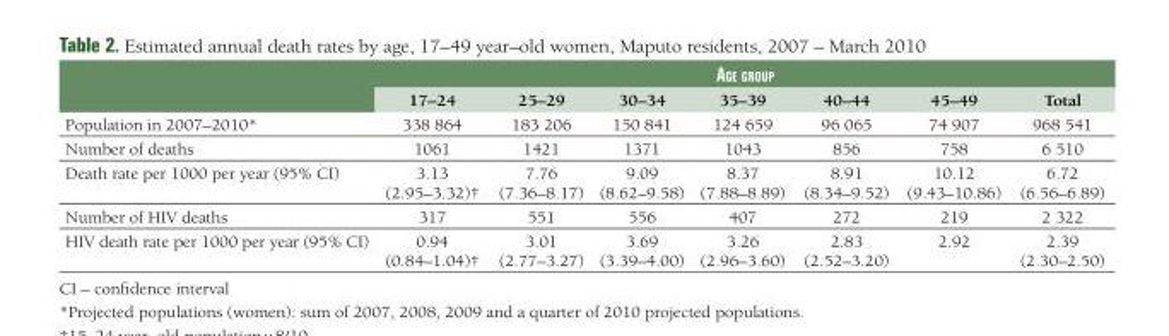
<table><thead><tr><td rowspan="2"></td><td colspan="7">age group</td></tr><tr><td>17–24</td><td>25–29</td><td>30–34</td><td>35–39</td><td>40–44</td><td>45–49</td><td>Total</td></tr></thead><tbody><tr><td>Population in 2007–2010*</td><td>338 864</td><td>183 206</td><td>150 841</td><td>124 659</td><td>96 065</td><td>74 907</td><td>968 541</td></tr><tr><td>Number of deaths</td><td>1061</td><td>1421</td><td>1371</td><td>1043</td><td>856</td><td>758</td><td>6 510</td></tr><tr><td>Death rate per 1000 per year (95% CI)</td><td>3.13 (2.95–3.32)†</td><td>7.76 (7.36–8.17)</td><td>9.09 (8.62–9.58)</td><td>8.37 (7.88–8.89)</td><td>8.91 (8.34–9.52)</td><td>10.12 (9.43–10.86)</td><td>6.72 (6.56–6.89)</td></tr><tr><td>Number of HIV deaths</td><td>317</td><td>551</td><td>556</td><td>407</td><td>272</td><td>219</td><td>2 322</td></tr><tr><td>HIV death rate per 1000 per year (95% CI)</td><td>0.94 (0.84–1.04)†</td><td>3.01 (2.77–3.27)</td><td>3.69 (3.39–4.00)</td><td>3.26 (2.96–3.60)</td><td>2.83 (2.52–3.20)</td><td>2.92</td><td>2.39 (2.30–2.50)</td></tr></tbody></table>